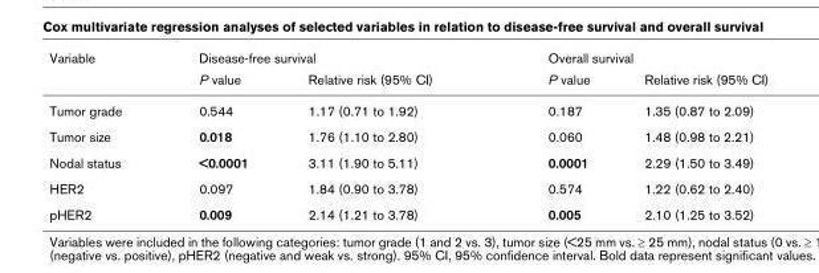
<table><thead><tr><td rowspan="2">Variable</td><td colspan="2">Disease-free survival</td><td colspan="2">Overall survival</td></tr><tr><td>P value</td><td>Relative risk (95% CI)</td><td>P value</td><td>Relative risk (95% CI)</td></tr></thead><tbody><tr><td>Tumor grade</td><td>0.544</td><td>1.17 (0.71 to 1.92)</td><td>0.187</td><td>1.35 (0.87 to 2.09)</td></tr><tr><td>Tumor size</td><td>0.018</td><td>1.76 (1.10 to 2.80)</td><td>0.060</td><td>1.48 (0.98 to 2.21)</td></tr><tr><td>Nodal status</td><td>&lt;0.0001</td><td>3.11 (1.90 to 5.11)</td><td>0.0001</td><td>2.29 (1.50 to 3.49)</td></tr><tr><td>HER2</td><td>0.097</td><td>1.84 (0.90 to 3.78)</td><td>0.574</td><td>1.22 (0.62 to 2.40)</td></tr><tr><td>pHER2</td><td>0.009</td><td>2.14 (1.21 to 3.78)</td><td>0.005</td><td>2.10 (1.25 to 3.52)</td></tr></tbody></table>